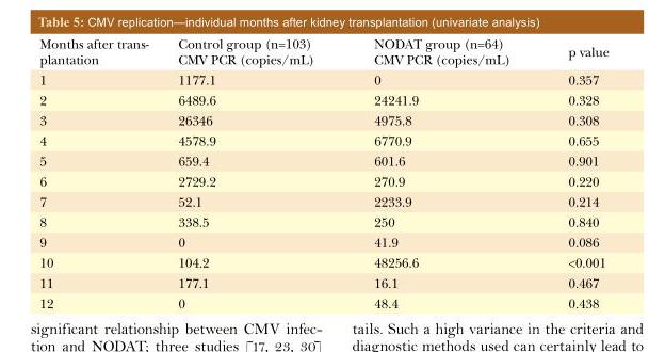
<table><thead><tr><td>Months after trans- plantation</td><td>Control group (n=103) CMV PCR (copies/mL)</td><td>NODAT group (n=64) CMV PCR (copies/mL)</td><td>p value</td></tr></thead><tbody><tr><td>1</td><td>1177.1</td><td>0</td><td>0.357</td></tr><tr><td>2</td><td>6489.6</td><td>24241.9</td><td>0.328</td></tr><tr><td>3</td><td>26346</td><td>4975.8</td><td>0.308</td></tr><tr><td>4</td><td>4578.9</td><td>6770.9</td><td>0.655</td></tr><tr><td>5</td><td>659.4</td><td>601.6</td><td>0.901</td></tr><tr><td>6</td><td>2729.2</td><td>270.9</td><td>0.220</td></tr><tr><td>7</td><td>52.1</td><td>2233.9</td><td>0.214</td></tr><tr><td>8</td><td>338.5</td><td>250</td><td>0.840</td></tr><tr><td>9</td><td>0</td><td>41.9</td><td>0.086</td></tr><tr><td>10</td><td>104.2</td><td>48256.6</td><td>&lt;0.001</td></tr><tr><td>11</td><td>177.1</td><td>16.1</td><td>0.467</td></tr><tr><td>12</td><td>0</td><td>48.4</td><td>0.438</td></tr></tbody></table>